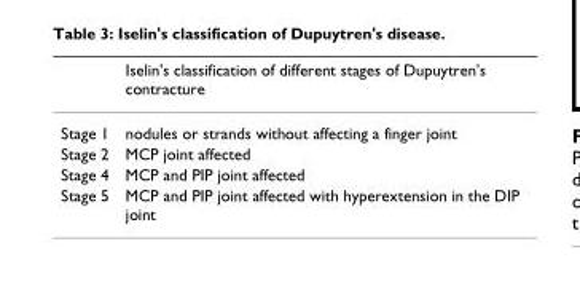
<table><thead><tr><td></td><td>Iselin&#x27;s classification of different stages of Dupuytren&#x27;s contracture</td></tr></thead><tbody><tr><td>Stage 1</td><td>nodules or strands without affecting a finger joint</td></tr><tr><td>Stage 2</td><td>MCP joint affected</td></tr><tr><td>Stage 4</td><td>MCP and PIP joint affected</td></tr><tr><td>Stage 5</td><td>MCP and PIP joint affected with hyperextension in the DIP joint</td></tr></tbody></table>